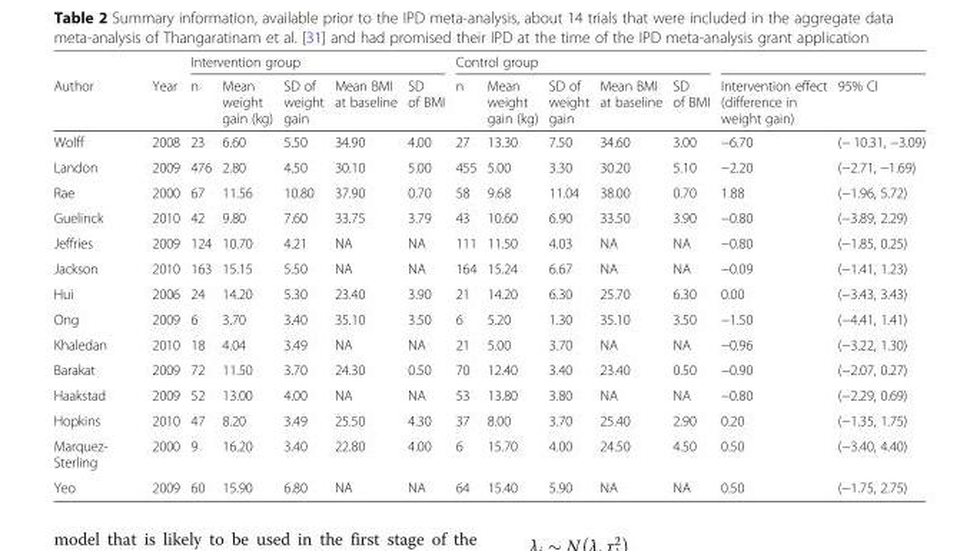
<table><thead><tr><td rowspan="2">Author</td><td rowspan="2">Year</td><td colspan="5">Intervention group</td><td colspan="5">Control group</td><td rowspan="2">Intervention effect (difference in weight gain)</td><td rowspan="2">95% CI</td></tr><tr><td>n</td><td>Mean weight gain (kg)</td><td>SD of weight gain</td><td>Mean BMI at baseline</td><td>SD of BMI</td><td>n</td><td>Mean weight gain (kg)</td><td>SD of weight gain</td><td>Mean BMI at baseline</td><td>SD of BMI</td></tr></thead><tbody><tr><td>Wolff</td><td>2008</td><td>23</td><td>6.60</td><td>5.50</td><td>34.90</td><td>4.00</td><td>27</td><td>13.30</td><td>7.50</td><td>34.60</td><td>3.00</td><td>−6.70</td><td>(− 10.31, −3.09)</td></tr><tr><td>Landon</td><td>2009</td><td>476</td><td>2.80</td><td>4.50</td><td>30.10</td><td>5.00</td><td>455</td><td>5.00</td><td>3.30</td><td>30.20</td><td>5.10</td><td>−2.20</td><td>(−2.71, −1.69)</td></tr><tr><td>Rae</td><td>2000</td><td>67</td><td>11.56</td><td>10.80</td><td>37.90</td><td>0.70</td><td>58</td><td>9.68</td><td>11.04</td><td>38.00</td><td>0.70</td><td>1.88</td><td>(−1.96, 5.72)</td></tr><tr><td>Guelinck</td><td>2010</td><td>42</td><td>9.80</td><td>7.60</td><td>33.75</td><td>3.79</td><td>43</td><td>10.60</td><td>6.90</td><td>33.50</td><td>3.90</td><td>−0.80</td><td>(−3.89, 2.29)</td></tr><tr><td>Jeffries</td><td>2009</td><td>124</td><td>10.70</td><td>4.21</td><td>NA</td><td>NA</td><td>111</td><td>11.50</td><td>4.03</td><td>NA</td><td>NA</td><td>−0.80</td><td>(−1.85, 0.25)</td></tr><tr><td>Jackson</td><td>2010</td><td>163</td><td>15.15</td><td>5.50</td><td>NA</td><td>NA</td><td>164</td><td>15.24</td><td>6.67</td><td>NA</td><td>NA</td><td>−0.09</td><td>(−1.41, 1.23)</td></tr><tr><td>Hui</td><td>2006</td><td>24</td><td>14.20</td><td>5.30</td><td>23.40</td><td>3.90</td><td>21</td><td>14.20</td><td>6.30</td><td>25.70</td><td>6.30</td><td>0.00</td><td>(−3.43, 3.43)</td></tr><tr><td>Ong</td><td>2009</td><td>6</td><td>3.70</td><td>3.40</td><td>35.10</td><td>3.50</td><td>6</td><td>5.20</td><td>1.30</td><td>35.10</td><td>3.50</td><td>−1.50</td><td>(−4.41, 1.41)</td></tr><tr><td>Khaledan</td><td>2010</td><td>18</td><td>4.04</td><td>3.49</td><td>NA</td><td>NA</td><td>21</td><td>5.00</td><td>3.70</td><td>NA</td><td>NA</td><td>−0.96</td><td>(−3.22, 1.30)</td></tr><tr><td>Barakat</td><td>2009</td><td>72</td><td>11.50</td><td>3.70</td><td>24.30</td><td>0.50</td><td>70</td><td>12.40</td><td>3.40</td><td>23.40</td><td>0.50</td><td>−0.90</td><td>(−2.07, 0.27)</td></tr><tr><td>Haakstad</td><td>2009</td><td>52</td><td>13.00</td><td>4.00</td><td>NA</td><td>NA</td><td>53</td><td>13.80</td><td>3.80</td><td>NA</td><td>NA</td><td>−0.80</td><td>(−2.29, 0.69)</td></tr><tr><td>Hopkins</td><td>2010</td><td>47</td><td>8.20</td><td>3.49</td><td>25.50</td><td>4.30</td><td>37</td><td>8.00</td><td>3.70</td><td>25.40</td><td>2.90</td><td>0.20</td><td>(−1.35, 1.75)</td></tr><tr><td>Marquez- Sterling</td><td>2000</td><td>9</td><td>16.20</td><td>3.40</td><td>22.80</td><td>4.00</td><td>6</td><td>15.70</td><td>4.00</td><td>24.50</td><td>4.50</td><td>0.50</td><td>(−3.40, 4.40)</td></tr><tr><td>Yeo</td><td>2009</td><td>60</td><td>15.90</td><td>6.80</td><td>NA</td><td>NA</td><td>64</td><td>15.40</td><td>5.90</td><td>NA</td><td>NA</td><td>0.50</td><td>(−1.75, 2.75)</td></tr></tbody></table>